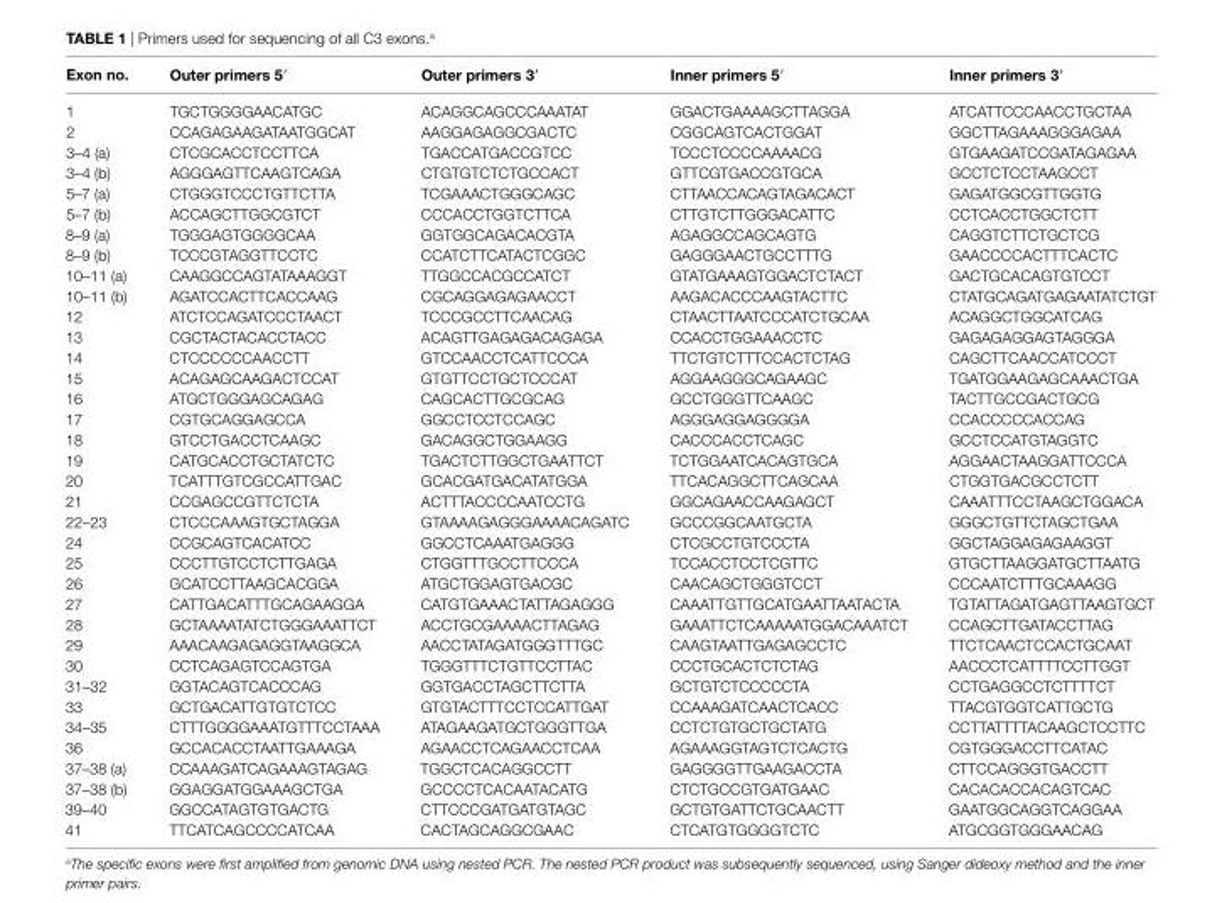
<table><thead><tr><td>exon no.</td><td>Outer primers 5′</td><td>Outer primers 3′</td><td>inner primers 5′</td><td>inner primers 3′</td></tr></thead><tbody><tr><td>1</td><td>TGCTGGGGAACATGC</td><td>ACAGGCAGCCCAAATAT</td><td>GGACTGAAAAGCTTAGGA</td><td>ATCATTCCCAACCTGCTAA</td></tr><tr><td>2</td><td>CCAGAGAAGATAATGGCAT</td><td>AAGGAGAGGCGACTC</td><td>CGGCAGTCACTGGAT</td><td>GGCTTAGAAAGGGAGAA</td></tr><tr><td>3–4 (a)</td><td>CTCGCACCTCCTTCA</td><td>TGACCATGACCGTCC</td><td>TCCCTCCCCAAAACG</td><td>GTGAAGATCCGATAGAGAA</td></tr><tr><td>3–4 (b)</td><td>AGGGAGTTCAAGTCAGA</td><td>CTGTGTCTCTGCCACT</td><td>GTTCGTGACCGTGCA</td><td>GCCTCTCCTAAGCCT</td></tr><tr><td>5–7 (a)</td><td>CTGGGTCCCTGTTCTTA</td><td>TCGAAACTGGGCAGC</td><td>CTTAACCACAGTAGACACT</td><td>GAGATGGCGTTGGTG</td></tr><tr><td>5–7 (b)</td><td>ACCAGCTTGGCGTCT</td><td>CCCACCTGGTCTTCA</td><td>CTTGTCTTGGGACATTC</td><td>CCTCACCTGGCTCTT</td></tr><tr><td>8–9 (a)</td><td>TGGGAGTGGGGCAA</td><td>GGTGGCAGACACGTA</td><td>AGAGGCCAGCAGTG</td><td>CAGGTCTTCTGCTCG</td></tr><tr><td>8–9 (b)</td><td>TCCCGTAGGTTCCTC</td><td>CCATCTTCATACTCGGC</td><td>GAGGGAACTGCCTTTG</td><td>GAACCCCACTTTCACTC</td></tr><tr><td>10–11 (a)</td><td>CAAGGCCAGTATAAAGGT</td><td>TTGGCCACGCCATCT</td><td>GTATGAAAGTGGACTCTACT</td><td>GACTGCACAGTGTCCT</td></tr><tr><td>10–11 (b)</td><td>AGATCCACTTCACCAAG</td><td>CGCAGGAGAGAACCT</td><td>AAGACACCCAAGTACTTC</td><td>CTATGCAGATGAGAATATCTGT</td></tr><tr><td>12</td><td>ATCTCCAGATCCCTAACT</td><td>TCCCGCCTTCAACAG</td><td>CTAACTTAATCCCATCTGCAA</td><td>ACAGGCTGGCATCAG</td></tr><tr><td>13</td><td>CGCTACTACACCTACC</td><td>ACAGTTGAGAGACAGAGA</td><td>CCACCTGGAAACCTC</td><td>GAGAGAGGAGTAGGGA</td></tr><tr><td>14</td><td>CTCCCCCCAACCTT</td><td>GTCCAACCTCATTCCCA</td><td>TTCTGTCTTTCCACTCTAG</td><td>CAGCTTCAACCATCCCT</td></tr><tr><td>15</td><td>ACAGAGCAAGACTCCAT</td><td>GTGTTCCTGCTCCCAT</td><td>AGGAAGGGCAGAAGC</td><td>TGATGGAAGAGCAAACTGA</td></tr><tr><td>16</td><td>ATGCTGGGAGCAGAG</td><td>CAGCACTTGCGCAG</td><td>GCCTGGGTTCAAGC</td><td>TACTTGCCGACTGCG</td></tr><tr><td>17</td><td>CGTGCAGGAGCCA</td><td>GGCCTCCTCCAGC</td><td>AGGGAGGAGGGGA</td><td>CCACCCCCACCAG</td></tr><tr><td>18</td><td>GTCCTGACCTCAAGC</td><td>GACAGGCTGGAAGG</td><td>CACCCACCTCAGC</td><td>GCCTCCATGTAGGTC</td></tr><tr><td>19</td><td>CATGCACCTGCTATCTC</td><td>TGACTCTTGGCTGAATTCT</td><td>TCTGGAATCACAGTGCA</td><td>AGGAACTAAGGATTCCCA</td></tr><tr><td>20</td><td>TCATTTGTCGCCATTGAC</td><td>GCACGATGACATATGGA</td><td>TTCACAGGCTTCAGCAA</td><td>CTGGTGACGCCTCTT</td></tr><tr><td>21</td><td>CCGAGCCGTTCTCTA</td><td>ACTTTACCCCAATCCTG</td><td>GGCAGAACCAAGAGCT</td><td>CAAATTTCCTAAGCTGGACA</td></tr><tr><td>22–23</td><td>CTCCCAAAGTGCTAGGA</td><td>GTAAAAGAGGGAAAACAGATC</td><td>GCCCGGCAATGCTA</td><td>GGGCTGTTCTAGCTGAA</td></tr><tr><td>24</td><td>CCGCAGTCACATCC</td><td>GGCCTCAAATGAGGG</td><td>CTCGCCTGTCCCTA</td><td>GGCTAGGAGAGAAGGT</td></tr><tr><td>25</td><td>CCCTTGTCCTCTTGAGA</td><td>CTGGTTTGCCTTCCCA</td><td>TCCACCTCCTCGTTC</td><td>GTGCTTAAGGATGCTTAATG</td></tr><tr><td>26</td><td>GCATCCTTAAGCACGGA</td><td>ATGCTGGAGTGACGC</td><td>CAACAGCTGGGTCCT</td><td>CCCAATCTTTGCAAAGG</td></tr><tr><td>27</td><td>CATTGACATTTGCAGAAGGA</td><td>CATGTGAAACTATTAGAGGG</td><td>CAAATTGTTGCATGAATTAATACTA</td><td>TGTATTAGATGAGTTAAGTGCT</td></tr><tr><td>28</td><td>GCTAAAATATCTGGGAAATTCT</td><td>ACCTGCGAAAACTTAGAG</td><td>GAAATTCTCAAAAATGGACAAATCT</td><td>CCAGCTTGATACCTTAG</td></tr><tr><td>29</td><td>AAACAAGAGAGGTAAGGCA</td><td>AACCTATAGATGGGTTTGC</td><td>CAAGTAATTGAGAGCCTC</td><td>TTCTCAACTCCACTGCAAT</td></tr><tr><td>30</td><td>CCTCAGAGTCCAGTGA</td><td>TGGGTTTCTGTTCCTTAC</td><td>CCCTGCACTCTCTAG</td><td>AACCCTCATTTTCCTTGGT</td></tr><tr><td>31–32</td><td>GGTACAGTCACCCAG</td><td>GGTGACCTAGCTTCTTA</td><td>GCTGTCTCCCCCTA</td><td>CCTGAGGCCTCTTTTCT</td></tr><tr><td>33</td><td>GCTGACATTGTGTCTCC</td><td>GTGTACTTTCCTCCATTGAT</td><td>CCAAAGATCAACTCACC</td><td>TTACGTGGTCATTGCTG</td></tr><tr><td>34–35</td><td>CTTTGGGGAAATGTTTCCTAAA</td><td>ATAGAAGATGCTGGGTTGA</td><td>CCTCTGTGCTGCTATG</td><td>CCTTATTTTACAAGCTCCTTC</td></tr><tr><td>36</td><td>GCCACACCTAATTGAAAGA</td><td>AGAACCTCAGAACCTCAA</td><td>AGAAAGGTAGTCTCACTG</td><td>CGTGGGACCTTCATAC</td></tr><tr><td>37–38 (a)</td><td>CCAAAGATCAGAAAGTAGAG</td><td>TGGCTCACAGGCCTT</td><td>GAGGGGTTGAAGACCTA</td><td>CTTCCAGGGTGACCTT</td></tr><tr><td>37–38 (b)</td><td>GGAGGATGGAAAGCTGA</td><td>GCCCCTCACAATACATG</td><td>CTCTGCCGTGATGAAC</td><td>CACACACCACAGTCAC</td></tr><tr><td>39–40</td><td>GGCCATAGTGTGACTG</td><td>CTTCCCGATGATGTAGC</td><td>GCTGTGATTCTGCAACTT</td><td>GAATGGCAGGTCAGGAA</td></tr><tr><td>41</td><td>TTCATCAGCCCCATCAA</td><td>CACTAGCAGGCGAAC</td><td>CTCATGTGGGGTCTC</td><td>ATGCGGTGGGAACAG</td></tr></tbody></table>